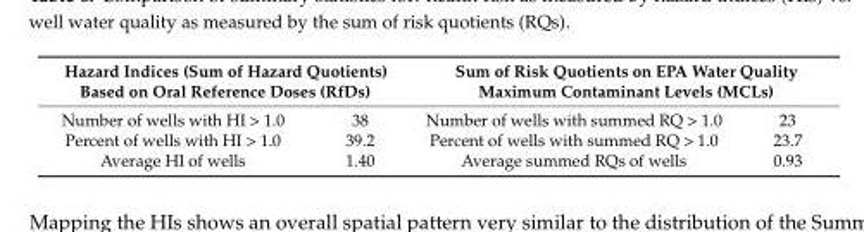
<table><thead><tr><td colspan="2">Hazard Indices (Sum of Hazard Quotients) Based on Oral Reference Doses (RfDs)</td><td colspan="2">Sum of Risk Quotients on EPA Water Quality Maximum Contaminant Levels (MCLs)</td></tr><tr><td>Number of wells with HI &gt; 1.0</td><td>38</td><td>Number of wells with summed RQ &gt; 1.0</td><td>23</td></tr></thead><tbody><tr><td>Percent of wells with HI &gt; 1.0</td><td>39.2</td><td>Percent of wells with summed RQ &gt; 1.0</td><td>23.7</td></tr><tr><td>Average HI of wells</td><td>1.40</td><td>Average summed RQs of wells</td><td>0.93</td></tr></tbody></table>